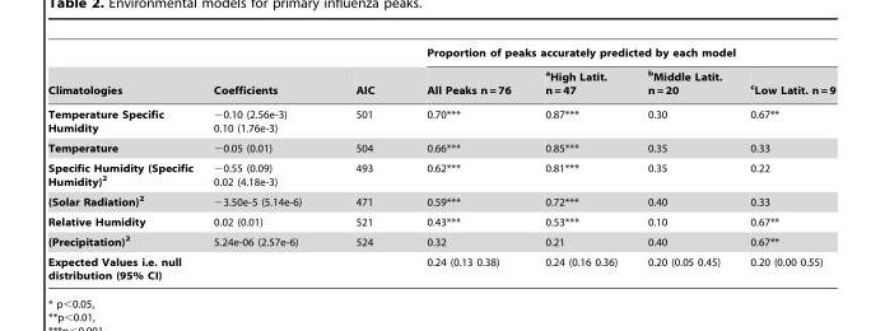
<table><thead><tr><td rowspan="2">Climatologies</td><td rowspan="2">Coefficients</td><td rowspan="2">AIC</td><td colspan="4">Proportion of peaks accurately predicted by each model</td></tr><tr><td>All Peaks n = 76</td><td>aHigh Latit. n = 47</td><td>bMiddle Latit. n = 20</td><td>cLow Latit. n = 9</td></tr></thead><tbody><tr><td>Temperature Specific Humidity</td><td>−0.10 (2.56e-3) 0.10 (1.76e-3)</td><td>501</td><td>0.70***</td><td>0.87***</td><td>0.30</td><td>0.67**</td></tr><tr><td>Temperature</td><td>−0.05 (0.01)</td><td>504</td><td>0.66***</td><td>0.85***</td><td>0.35</td><td>0.33</td></tr><tr><td>Specific Humidity (Specific Humidity)<sup>2</sup></td><td>−0.55 (0.09) 0.02 (4.18e-3)</td><td>493</td><td>0.62***</td><td>0.81***</td><td>0.35</td><td>0.22</td></tr><tr><td>(Solar Radiation)<sup>2</sup></td><td>−3.50e-5 (5.14e-6)</td><td>471</td><td>0.59***</td><td>0.72***</td><td>0.40</td><td>0.33</td></tr><tr><td>Relative Humidity</td><td>0.02 (0.01)</td><td>521</td><td>0.43***</td><td>0.53***</td><td>0.10</td><td>0.67**</td></tr><tr><td>(Precipitation)<sup>2</sup></td><td>5.24e-06 (2.57e-6)</td><td>524</td><td>0.32</td><td>0.21</td><td>0.40</td><td>0.67**</td></tr><tr><td>Expected Values i.e. null distribution (95% CI)</td><td></td><td></td><td>0.24 (0.13 0.38)</td><td>0.24 (0.16 0.36)</td><td>0.20 (0.05 0.45)</td><td>0.20 (0.00 0.55)</td></tr></tbody></table>